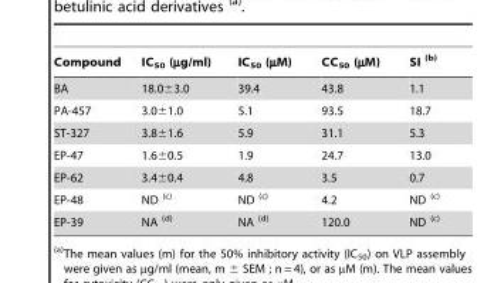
<table><thead><tr><td>Compound</td><td>IC<sub>50</sub> (µg/ml)</td><td>IC<sub>50</sub> (µM)</td><td>CC<sub>50</sub> (µM)</td><td>SI (b)</td></tr></thead><tbody><tr><td>BA</td><td>18.0±3.0</td><td>39.4</td><td>43.8</td><td>1.1</td></tr><tr><td>PA-457</td><td>3.0±1.0</td><td>5.1</td><td>93.5</td><td>18.7</td></tr><tr><td>ST-327</td><td>3.8±1.6</td><td>5.9</td><td>31.1</td><td>5.3</td></tr><tr><td>EP-47</td><td>1.6±0.5</td><td>1.9</td><td>24.7</td><td>13.0</td></tr><tr><td>EP-62</td><td>3.4±0.4</td><td>4.8</td><td>3.5</td><td>0.7</td></tr><tr><td>EP-48</td><td>ND (c)</td><td>ND (c)</td><td>4.2</td><td>ND (c)</td></tr><tr><td>EP-39</td><td>NA (d)</td><td>NA (d)</td><td>120.0</td><td>ND (c)</td></tr></tbody></table>